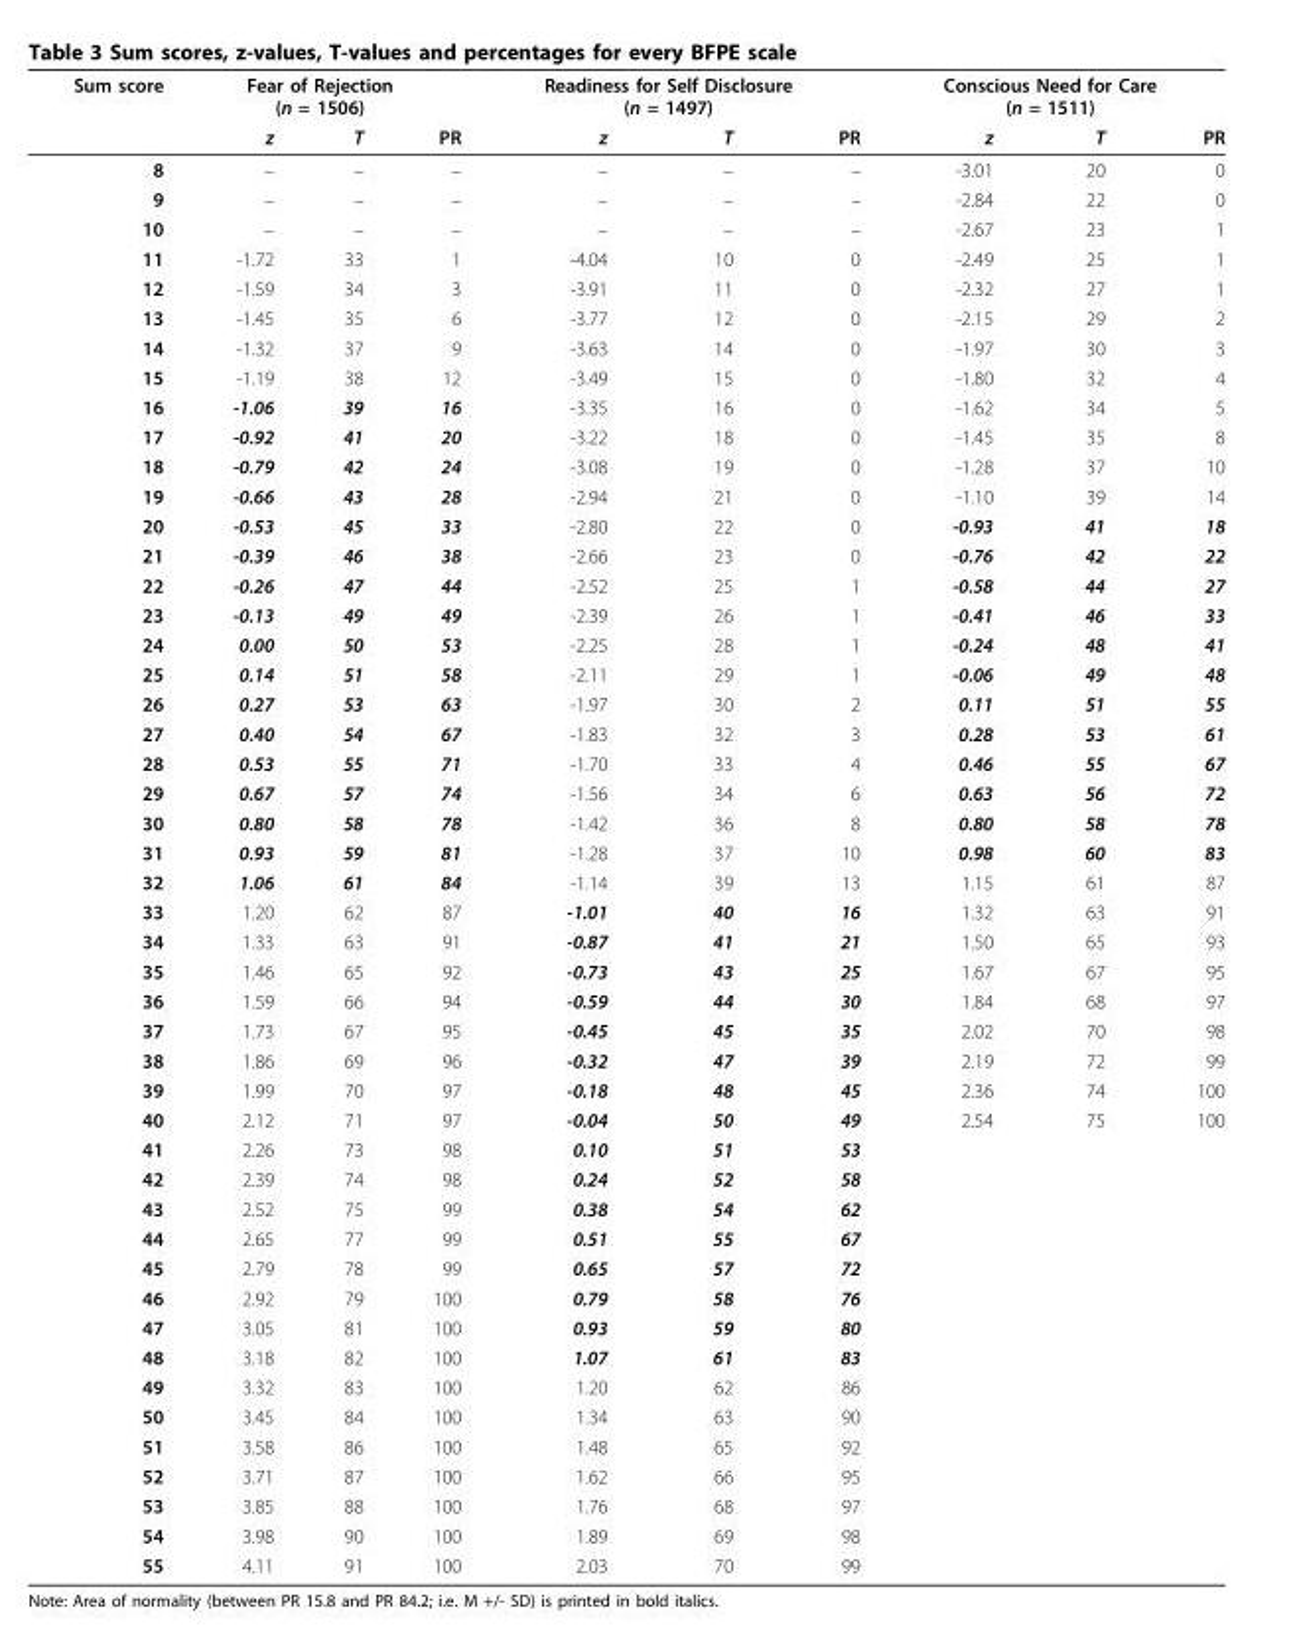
<table><thead><tr><td rowspan="2">Sum score</td><td colspan="3">Fear of Rejection (n = 1506)</td><td colspan="3">Readiness for Self Disclosure (n = 1497)</td><td colspan="3">Conscious Need for Care (n = 1511)</td></tr><tr><td>z</td><td>T</td><td>PR</td><td>z</td><td>T</td><td>PR</td><td>z</td><td>T</td><td>PR</td></tr></thead><tbody><tr><td>8</td><td>–</td><td>–</td><td>–</td><td>–</td><td>–</td><td>–</td><td>-3.01</td><td>20</td><td>0</td></tr><tr><td>9</td><td>–</td><td>–</td><td>–</td><td>–</td><td>–</td><td>–</td><td>-2.84</td><td>22</td><td>0</td></tr><tr><td>10</td><td>–</td><td>–</td><td>–</td><td>–</td><td>–</td><td>–</td><td>-2.67</td><td>23</td><td>1</td></tr><tr><td>11</td><td>-1.72</td><td>33</td><td>1</td><td>-4.04</td><td>10</td><td>0</td><td>-2.49</td><td>25</td><td>1</td></tr><tr><td>12</td><td>-1.59</td><td>34</td><td>3</td><td>-3.91</td><td>11</td><td>0</td><td>-2.32</td><td>27</td><td>1</td></tr><tr><td>13</td><td>-1.45</td><td>35</td><td>6</td><td>-3.77</td><td>12</td><td>0</td><td>-2.15</td><td>29</td><td>2</td></tr><tr><td>14</td><td>-1.32</td><td>37</td><td>9</td><td>-3.63</td><td>14</td><td>0</td><td>-1.97</td><td>30</td><td>3</td></tr><tr><td>15</td><td>-1.19</td><td>38</td><td>12</td><td>-3.49</td><td>15</td><td>0</td><td>-1.80</td><td>32</td><td>4</td></tr><tr><td>16</td><td>-1.06</td><td>39</td><td>16</td><td>-3.35</td><td>16</td><td>0</td><td>-1.62</td><td>34</td><td>5</td></tr><tr><td>17</td><td>-0.92</td><td>41</td><td>20</td><td>-3.22</td><td>18</td><td>0</td><td>-1.45</td><td>35</td><td>8</td></tr><tr><td>18</td><td>-0.79</td><td>42</td><td>24</td><td>-3.08</td><td>19</td><td>0</td><td>-1.28</td><td>37</td><td>10</td></tr><tr><td>19</td><td>-0.66</td><td>43</td><td>28</td><td>-2.94</td><td>21</td><td>0</td><td>-1.10</td><td>39</td><td>14</td></tr><tr><td>20</td><td>-0.53</td><td>45</td><td>33</td><td>-2.80</td><td>22</td><td>0</td><td>-0.93</td><td>41</td><td>18</td></tr><tr><td>21</td><td>-0.39</td><td>46</td><td>38</td><td>-2.66</td><td>23</td><td>0</td><td>-0.76</td><td>42</td><td>22</td></tr><tr><td>22</td><td>-0.26</td><td>47</td><td>44</td><td>-2.52</td><td>25</td><td>1</td><td>-0.58</td><td>44</td><td>27</td></tr><tr><td>23</td><td>-0.13</td><td>49</td><td>49</td><td>-2.39</td><td>26</td><td>1</td><td>-0.41</td><td>46</td><td>33</td></tr><tr><td>24</td><td>0.00</td><td>50</td><td>53</td><td>-2.25</td><td>28</td><td>1</td><td>-0.24</td><td>48</td><td>41</td></tr><tr><td>25</td><td>0.14</td><td>51</td><td>58</td><td>-2.11</td><td>29</td><td>1</td><td>-0.06</td><td>49</td><td>48</td></tr><tr><td>26</td><td>0.27</td><td>53</td><td>63</td><td>-1.97</td><td>30</td><td>2</td><td>0.11</td><td>51</td><td>55</td></tr><tr><td>27</td><td>0.40</td><td>54</td><td>67</td><td>-1.83</td><td>32</td><td>3</td><td>0.28</td><td>53</td><td>61</td></tr><tr><td>28</td><td>0.53</td><td>55</td><td>71</td><td>-1.70</td><td>33</td><td>4</td><td>0.46</td><td>55</td><td>67</td></tr><tr><td>29</td><td>0.67</td><td>57</td><td>74</td><td>-1.56</td><td>34</td><td>6</td><td>0.63</td><td>56</td><td>72</td></tr><tr><td>30</td><td>0.80</td><td>58</td><td>78</td><td>-1.42</td><td>36</td><td>8</td><td>0.80</td><td>58</td><td>78</td></tr><tr><td>31</td><td>0.93</td><td>59</td><td>81</td><td>-1.28</td><td>37</td><td>10</td><td>0.98</td><td>60</td><td>83</td></tr><tr><td>32</td><td>1.06</td><td>61</td><td>84</td><td>-1.14</td><td>39</td><td>13</td><td>1.15</td><td>61</td><td>87</td></tr><tr><td>33</td><td>1.20</td><td>62</td><td>87</td><td>-1.01</td><td>40</td><td>16</td><td>1.32</td><td>63</td><td>91</td></tr><tr><td>34</td><td>1.33</td><td>63</td><td>91</td><td>-0.87</td><td>41</td><td>21</td><td>1.50</td><td>65</td><td>93</td></tr><tr><td>35</td><td>1.46</td><td>65</td><td>92</td><td>-0.73</td><td>43</td><td>25</td><td>1.67</td><td>67</td><td>95</td></tr><tr><td>36</td><td>1.59</td><td>66</td><td>94</td><td>-0.59</td><td>44</td><td>30</td><td>1.84</td><td>68</td><td>97</td></tr><tr><td>37</td><td>1.73</td><td>67</td><td>95</td><td>-0.45</td><td>45</td><td>35</td><td>2.02</td><td>70</td><td>98</td></tr><tr><td>38</td><td>1.86</td><td>69</td><td>96</td><td>-0.32</td><td>47</td><td>39</td><td>2.19</td><td>72</td><td>99</td></tr><tr><td>39</td><td>1.99</td><td>70</td><td>97</td><td>-0.18</td><td>48</td><td>45</td><td>2.36</td><td>74</td><td>100</td></tr><tr><td>40</td><td>2.12</td><td>71</td><td>97</td><td>-0.04</td><td>50</td><td>49</td><td>2.54</td><td>75</td><td>100</td></tr><tr><td>41</td><td>2.26</td><td>73</td><td>98</td><td>0.10</td><td>51</td><td>53</td><td></td><td></td><td></td></tr><tr><td>42</td><td>2.39</td><td>74</td><td>98</td><td>0.24</td><td>52</td><td>58</td><td></td><td></td><td></td></tr><tr><td>43</td><td>2.52</td><td>75</td><td>99</td><td>0.38</td><td>54</td><td>62</td><td></td><td></td><td></td></tr><tr><td>44</td><td>2.65</td><td>77</td><td>99</td><td>0.51</td><td>55</td><td>67</td><td></td><td></td><td></td></tr><tr><td>45</td><td>2.79</td><td>78</td><td>99</td><td>0.65</td><td>57</td><td>72</td><td></td><td></td><td></td></tr><tr><td>46</td><td>2.92</td><td>79</td><td>100</td><td>0.79</td><td>58</td><td>76</td><td></td><td></td><td></td></tr><tr><td>47</td><td>3.05</td><td>81</td><td>100</td><td>0.93</td><td>59</td><td>80</td><td></td><td></td><td></td></tr><tr><td>48</td><td>3.18</td><td>82</td><td>100</td><td>1.07</td><td>61</td><td>83</td><td></td><td></td><td></td></tr><tr><td>49</td><td>3.32</td><td>83</td><td>100</td><td>1.20</td><td>62</td><td>86</td><td></td><td></td><td></td></tr><tr><td>50</td><td>3.45</td><td>84</td><td>100</td><td>1.34</td><td>63</td><td>90</td><td></td><td></td><td></td></tr><tr><td>51</td><td>3.58</td><td>86</td><td>100</td><td>1.48</td><td>65</td><td>92</td><td></td><td></td><td></td></tr><tr><td>52</td><td>3.71</td><td>87</td><td>100</td><td>1.62</td><td>66</td><td>95</td><td></td><td></td><td></td></tr><tr><td>53</td><td>3.85</td><td>88</td><td>100</td><td>1.76</td><td>68</td><td>97</td><td></td><td></td><td></td></tr><tr><td>54</td><td>3.98</td><td>90</td><td>100</td><td>1.89</td><td>69</td><td>98</td><td></td><td></td><td></td></tr><tr><td>55</td><td>4.11</td><td>91</td><td>100</td><td>2.03</td><td>70</td><td>99</td><td></td><td></td><td></td></tr></tbody></table>